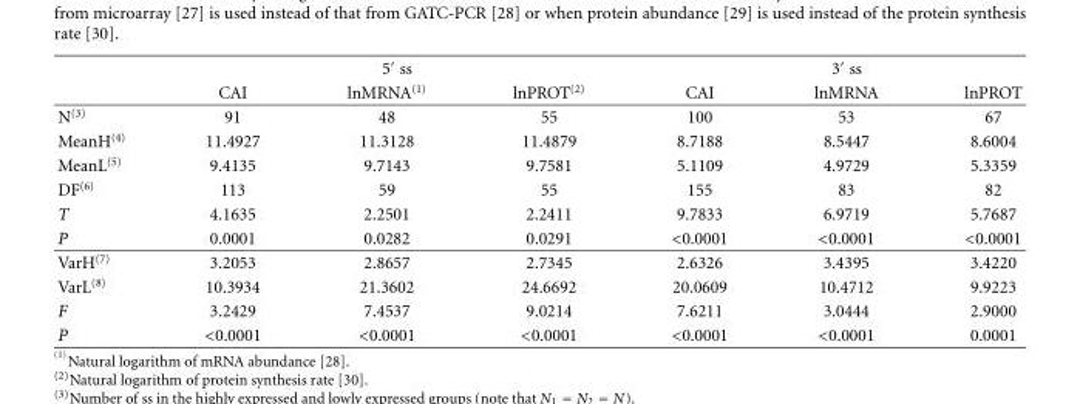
<table><thead><tr><td rowspan="2"></td><td colspan="3">5′ ss</td><td colspan="3">3′ ss</td></tr><tr><td>CAI</td><td>lnMRNA<sup>(1)</sup></td><td>lnPROT<sup>(2)</sup></td><td>CAI</td><td>lnMRNA</td><td>lnPROT</td></tr></thead><tbody><tr><td>N<sup>(3)</sup></td><td>91</td><td>48</td><td>55</td><td>100</td><td>53</td><td>67</td></tr><tr><td>MeanH<sup>(4)</sup></td><td>11.4927</td><td>11.3128</td><td>11.4879</td><td>8.7188</td><td>8.5447</td><td>8.6004</td></tr><tr><td>MeanL<sup>(5)</sup></td><td>9.4135</td><td>9.7143</td><td>9.7581</td><td>5.1109</td><td>4.9729</td><td>5.3359</td></tr><tr><td>DF<sup>(6)</sup></td><td>113</td><td>59</td><td>55</td><td>155</td><td>83</td><td>82</td></tr><tr><td>T</td><td>4.1635</td><td>2.2501</td><td>2.2411</td><td>9.7833</td><td>6.9719</td><td>5.7687</td></tr><tr><td>P</td><td>0.0001</td><td>0.0282</td><td>0.0291</td><td>&lt;0.0001</td><td>&lt;0.0001</td><td>&lt;0.0001</td></tr><tr><td>VarH<sup>(7)</sup></td><td>3.2053</td><td>2.8657</td><td>2.7345</td><td>2.6326</td><td>3.4395</td><td>3.4220</td></tr><tr><td>VarL<sup>(8)</sup></td><td>10.3934</td><td>21.3602</td><td>24.6692</td><td>20.0609</td><td>10.4712</td><td>9.9223</td></tr><tr><td>F</td><td>3.2429</td><td>7.4537</td><td>9.0214</td><td>7.6211</td><td>3.0444</td><td>2.9000</td></tr><tr><td>P</td><td>&lt;0.0001</td><td>&lt;0.0001</td><td>&lt;0.0001</td><td>&lt;0.0001</td><td>&lt;0.0001</td><td>0.0001</td></tr></tbody></table>